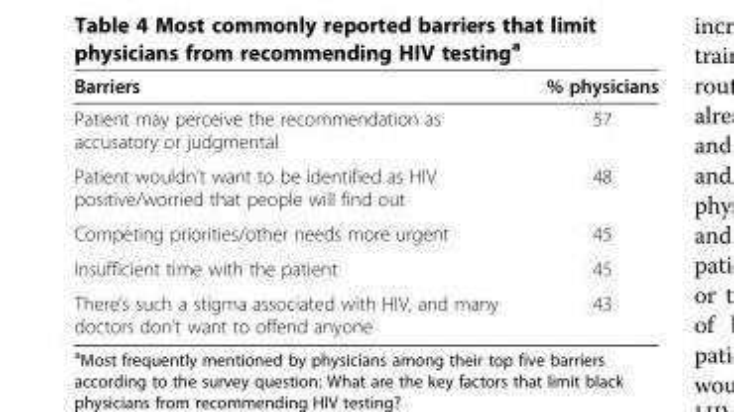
<table><thead><tr><td>Barriers</td><td>% physicians</td></tr></thead><tbody><tr><td>Patient may perceive the recommendation as accusatory or judgmental</td><td>57</td></tr><tr><td>Patient wouldn’t want to be identified as HIV positive/worried that people will find out</td><td>48</td></tr><tr><td>Competing priorities/other needs more urgent</td><td>45</td></tr><tr><td>Insufficient time with the patient</td><td>45</td></tr><tr><td>There’s such a stigma associated with HIV, and many doctors don’t want to offend anyone</td><td>43</td></tr></tbody></table>